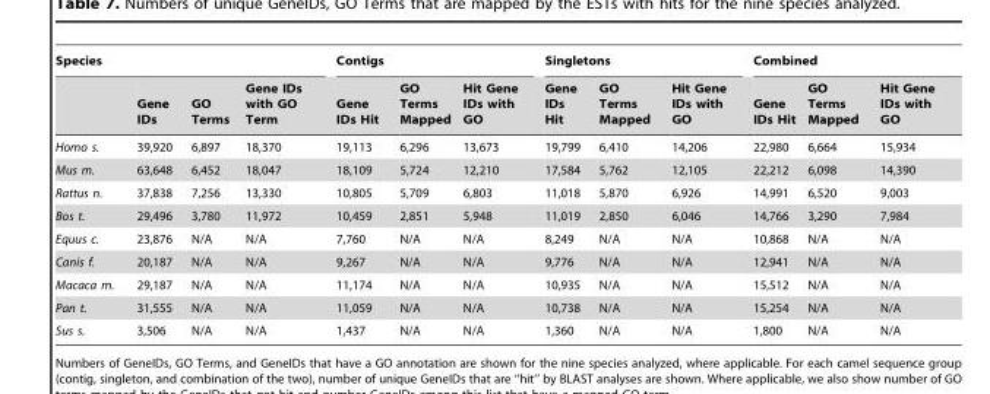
<table><thead><tr><td colspan="4">Species</td><td colspan="3">Contigs</td><td colspan="3">Singletons</td><td colspan="3">Combined</td></tr><tr><td></td><td>Gene IDs</td><td>GO Terms</td><td>Gene IDs with GO Term</td><td>Gene IDs Hit</td><td>GO Terms Mapped</td><td>Hit Gene IDs with GO</td><td>Gene IDs Hit</td><td>GO Terms Mapped</td><td>Hit Gene IDs with GO</td><td>Gene IDs Hit</td><td>GO Terms Mapped</td><td>Hit Gene IDs with GO</td></tr></thead><tbody><tr><td>Homo s.</td><td>39,920</td><td>6,897</td><td>18,370</td><td>19,113</td><td>6,296</td><td>13,673</td><td>19,799</td><td>6,410</td><td>14,206</td><td>22,980</td><td>6,664</td><td>15,934</td></tr><tr><td>Mus m.</td><td>63,648</td><td>6,452</td><td>18,047</td><td>18,109</td><td>5,724</td><td>12,210</td><td>17,584</td><td>5,762</td><td>12,105</td><td>22,212</td><td>6,098</td><td>14,390</td></tr><tr><td>Rattus n.</td><td>37,838</td><td>7,256</td><td>13,330</td><td>10,805</td><td>5,709</td><td>6,803</td><td>11,018</td><td>5,870</td><td>6,926</td><td>14,991</td><td>6,520</td><td>9,003</td></tr><tr><td>Bos t.</td><td>29,496</td><td>3,780</td><td>11,972</td><td>10,459</td><td>2,851</td><td>5,948</td><td>11,019</td><td>2,850</td><td>6,046</td><td>14,766</td><td>3,290</td><td>7,984</td></tr><tr><td>Equus c.</td><td>23,876</td><td>N/A</td><td>N/A</td><td>7,760</td><td>N/A</td><td>N/A</td><td>8,249</td><td>N/A</td><td>N/A</td><td>10,868</td><td>N/A</td><td>N/A</td></tr><tr><td>Canis f.</td><td>20,187</td><td>N/A</td><td>N/A</td><td>9,267</td><td>N/A</td><td>N/A</td><td>9,776</td><td>N/A</td><td>N/A</td><td>12,941</td><td>N/A</td><td>N/A</td></tr><tr><td>Macaca m.</td><td>29,187</td><td>N/A</td><td>N/A</td><td>11,174</td><td>N/A</td><td>N/A</td><td>10,935</td><td>N/A</td><td>N/A</td><td>15,512</td><td>N/A</td><td>N/A</td></tr><tr><td>Pan t.</td><td>31,555</td><td>N/A</td><td>N/A</td><td>11,059</td><td>N/A</td><td>N/A</td><td>10,738</td><td>N/A</td><td>N/A</td><td>15,254</td><td>N/A</td><td>N/A</td></tr><tr><td>Sus s.</td><td>3,506</td><td>N/A</td><td>N/A</td><td>1,437</td><td>N/A</td><td>N/A</td><td>1,360</td><td>N/A</td><td>N/A</td><td>1,800</td><td>N/A</td><td>N/A</td></tr></tbody></table>